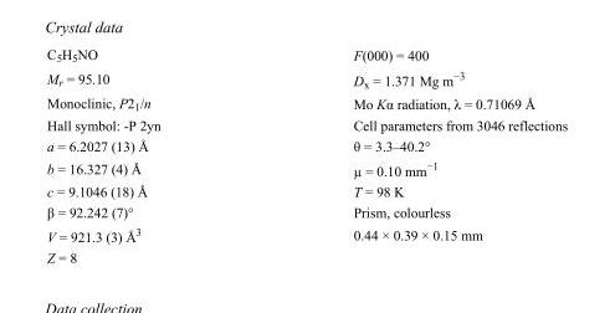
<table><tbody><tr><td>C<sub>5</sub>H<sub>5</sub>NO</td><td>F(000) = 400</td></tr><tr><td>M<sub>r</sub> = 95.10</td><td>D<sub>x</sub> = 1.371 Mg m<sup>−3</sup></td></tr><tr><td>Monoclinic, P2<sub>1</sub>/n</td><td>Mo Kα radiation, λ = 0.71069 Å</td></tr><tr><td>Hall symbol: -P 2yn</td><td>Cell parameters from 3046 reflections</td></tr><tr><td>a = 6.2027 (13) Å</td><td>θ = 3.3–40.2°</td></tr><tr><td>b = 16.327 (4) Å</td><td>µ = 0.10 mm<sup>−1</sup></td></tr><tr><td>c = 9.1046 (18) Å</td><td>T = 98 K</td></tr><tr><td>β = 92.242 (7)°</td><td>Prism, colourless</td></tr><tr><td>V = 921.3 (3) Å<sup>3</sup></td><td>0.44 × 0.39 × 0.15 mm</td></tr><tr><td>Z = 8</td><td></td></tr></tbody></table>